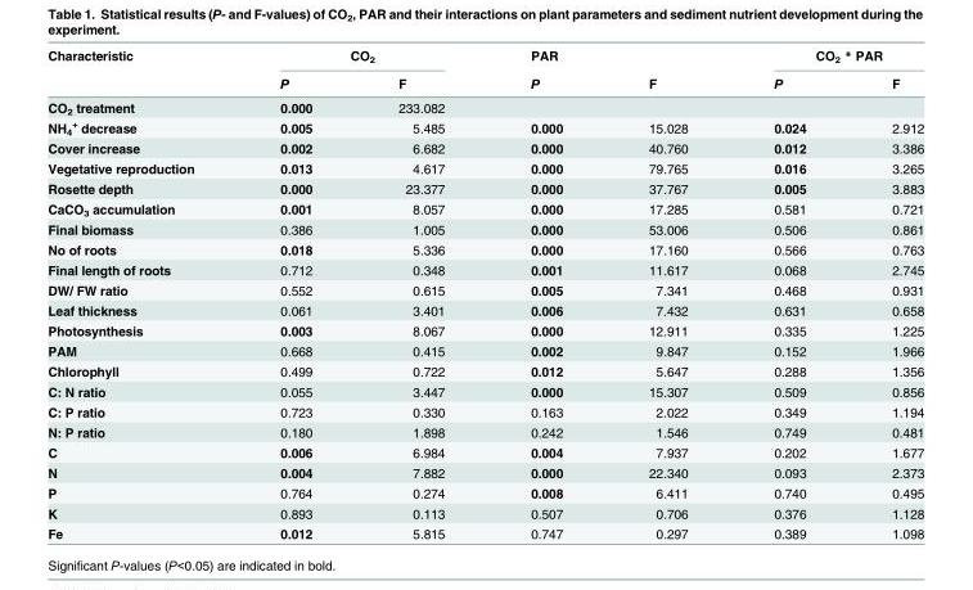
<table><thead><tr><td rowspan="2">Characteristic</td><td colspan="2">CO<sub>2</sub></td><td rowspan="2">PAR P</td><td rowspan="2">F</td><td colspan="2">CO<sub>2</sub> * PAR</td></tr><tr><td>P</td><td>F</td><td>P</td><td>F</td></tr></thead><tbody><tr><td>CO<sub>2</sub> treatment</td><td>0.000</td><td>233.082</td><td></td><td></td><td></td><td></td></tr><tr><td>NH<sub>4</sub> <sup>+</sup> decrease</td><td>0.005</td><td>5.485</td><td>0.000</td><td>15.028</td><td>0.024</td><td>2.912</td></tr><tr><td>Cover increase</td><td>0.002</td><td>6.682</td><td>0.000</td><td>40.760</td><td>0.012</td><td>3.386</td></tr><tr><td>Vegetative reproduction</td><td>0.013</td><td>4.617</td><td>0.000</td><td>79.765</td><td>0.016</td><td>3.265</td></tr><tr><td>Rosette depth</td><td>0.000</td><td>23.377</td><td>0.000</td><td>37.767</td><td>0.005</td><td>3.883</td></tr><tr><td>CaCO<sub>3</sub> accumulation</td><td>0.001</td><td>8.057</td><td>0.000</td><td>17.285</td><td>0.581</td><td>0.721</td></tr><tr><td>Final biomass</td><td>0.386</td><td>1.005</td><td>0.000</td><td>53.006</td><td>0.506</td><td>0.861</td></tr><tr><td>No of roots</td><td>0.018</td><td>5.336</td><td>0.000</td><td>17.160</td><td>0.566</td><td>0.763</td></tr><tr><td>Final length of roots</td><td>0.712</td><td>0.348</td><td>0.001</td><td>11.617</td><td>0.068</td><td>2.745</td></tr><tr><td>DW/ FW ratio</td><td>0.552</td><td>0.615</td><td>0.005</td><td>7.341</td><td>0.468</td><td>0.931</td></tr><tr><td>Leaf thickness</td><td>0.061</td><td>3.401</td><td>0.006</td><td>7.432</td><td>0.631</td><td>0.658</td></tr><tr><td>Photosynthesis</td><td>0.003</td><td>8.067</td><td>0.000</td><td>12.911</td><td>0.335</td><td>1.225</td></tr><tr><td>PAM</td><td>0.668</td><td>0.415</td><td>0.002</td><td>9.847</td><td>0.152</td><td>1.966</td></tr><tr><td>Chlorophyll</td><td>0.499</td><td>0.722</td><td>0.012</td><td>5.647</td><td>0.288</td><td>1.356</td></tr><tr><td>C: N ratio</td><td>0.055</td><td>3.447</td><td>0.000</td><td>15.307</td><td>0.509</td><td>0.856</td></tr><tr><td>C: P ratio</td><td>0.723</td><td>0.330</td><td>0.163</td><td>2.022</td><td>0.349</td><td>1.194</td></tr><tr><td>N: P ratio</td><td>0.180</td><td>1.898</td><td>0.242</td><td>1.546</td><td>0.749</td><td>0.481</td></tr><tr><td>C</td><td>0.006</td><td>6.984</td><td>0.004</td><td>7.937</td><td>0.202</td><td>1.677</td></tr><tr><td>N</td><td>0.004</td><td>7.882</td><td>0.000</td><td>22.340</td><td>0.093</td><td>2.373</td></tr><tr><td>P</td><td>0.764</td><td>0.274</td><td>0.008</td><td>6.411</td><td>0.740</td><td>0.495</td></tr><tr><td>K</td><td>0.893</td><td>0.113</td><td>0.507</td><td>0.706</td><td>0.376</td><td>1.128</td></tr><tr><td>Fe</td><td>0.012</td><td>5.815</td><td>0.747</td><td>0.297</td><td>0.389</td><td>1.098</td></tr></tbody></table>